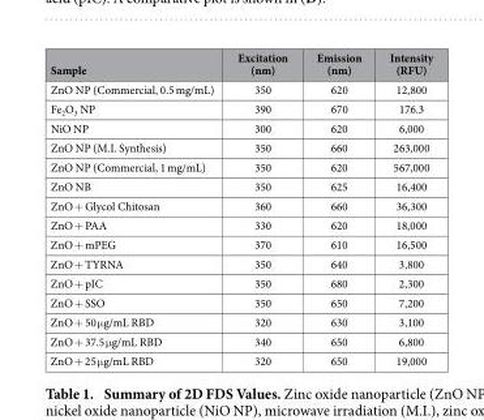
<table><thead><tr><td>Sample</td><td>Excitation (nm)</td><td>Emission (nm)</td><td>Intensity (RFU)</td></tr></thead><tbody><tr><td>ZnO NP (Commercial, 0.5 mg/mL)</td><td>350</td><td>620</td><td>12,800</td></tr><tr><td>Fe<sub>2</sub>O<sub>3</sub> NP</td><td>390</td><td>670</td><td>176.3</td></tr><tr><td>NiO NP</td><td>300</td><td>620</td><td>6,000</td></tr><tr><td>ZnO NP (M.I. Synthesis)</td><td>350</td><td>660</td><td>263,000</td></tr><tr><td>ZnO NP (Commercial, 1 mg/mL)</td><td>350</td><td>620</td><td>567,000</td></tr><tr><td>ZnO NB</td><td>350</td><td>625</td><td>16,400</td></tr><tr><td>ZnO + Glycol Chitosan</td><td>360</td><td>660</td><td>36,300</td></tr><tr><td>ZnO + PAA</td><td>330</td><td>620</td><td>18,000</td></tr><tr><td>ZnO + mPEG</td><td>370</td><td>610</td><td>16,500</td></tr><tr><td>ZnO + TYRNA</td><td>350</td><td>640</td><td>3,800</td></tr><tr><td>ZnO + pIC</td><td>350</td><td>680</td><td>2,300</td></tr><tr><td>ZnO + SSO</td><td>350</td><td>650</td><td>7,200</td></tr><tr><td>ZnO + 50 μ g/mL RBD</td><td>320</td><td>630</td><td>3,100</td></tr><tr><td>ZnO + 37.5 μ g/mL RBD</td><td>340</td><td>650</td><td>6,800</td></tr><tr><td>ZnO + 25 μ g/mL RBD</td><td>320</td><td>650</td><td>19,000</td></tr></tbody></table>